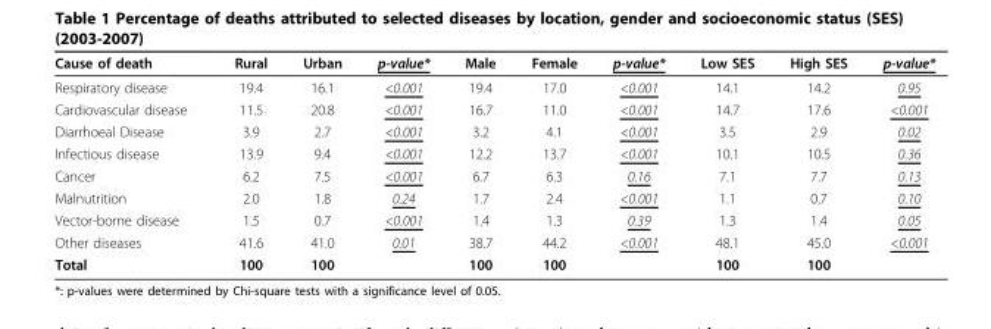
<table><thead><tr><td>Cause of death</td><td>Rural</td><td>Urban</td><td>p-value*</td><td>Male</td><td>Female</td><td>p-value*</td><td>Low SES</td><td>High SES</td><td>p-value*</td></tr></thead><tbody><tr><td>Respiratory disease</td><td>19.4</td><td>16.1</td><td>&lt;0.001</td><td>19.4</td><td>17.0</td><td>&lt;0.001</td><td>14.1</td><td>14.2</td><td>0.95</td></tr><tr><td>Cardiovascular disease</td><td>11.5</td><td>20.8</td><td>&lt;0.001</td><td>16.7</td><td>11.0</td><td>&lt;0.001</td><td>14.7</td><td>17.6</td><td>&lt;0.001</td></tr><tr><td>Diarrhoeal Disease</td><td>3.9</td><td>2.7</td><td>&lt;0.001</td><td>3.2</td><td>4.1</td><td>&lt;0.001</td><td>3.5</td><td>2.9</td><td>0.02</td></tr><tr><td>Infectious disease</td><td>13.9</td><td>9.4</td><td>&lt;0.001</td><td>12.2</td><td>13.7</td><td>&lt;0.001</td><td>10.1</td><td>10.5</td><td>0.36</td></tr><tr><td>Cancer</td><td>6.2</td><td>7.5</td><td>&lt;0.001</td><td>6.7</td><td>6.3</td><td>0.16</td><td>7.1</td><td>7.7</td><td>0.13</td></tr><tr><td>Malnutrition</td><td>2.0</td><td>1.8</td><td>0.24</td><td>1.7</td><td>2.4</td><td>&lt;0.001</td><td>1.1</td><td>0.7</td><td>0.10</td></tr><tr><td>Vector-borne disease</td><td>1.5</td><td>0.7</td><td>&lt;0.001</td><td>1.4</td><td>1.3</td><td>0.39</td><td>1.3</td><td>1.4</td><td>0.05</td></tr><tr><td>Other diseases</td><td>41.6</td><td>41.0</td><td>0.01</td><td>38.7</td><td>44.2</td><td>&lt;0.001</td><td>48.1</td><td>45.0</td><td>&lt;0.001</td></tr><tr><td>Total</td><td>100</td><td>100</td><td></td><td>100</td><td>100</td><td></td><td>100</td><td>100</td><td></td></tr></tbody></table>